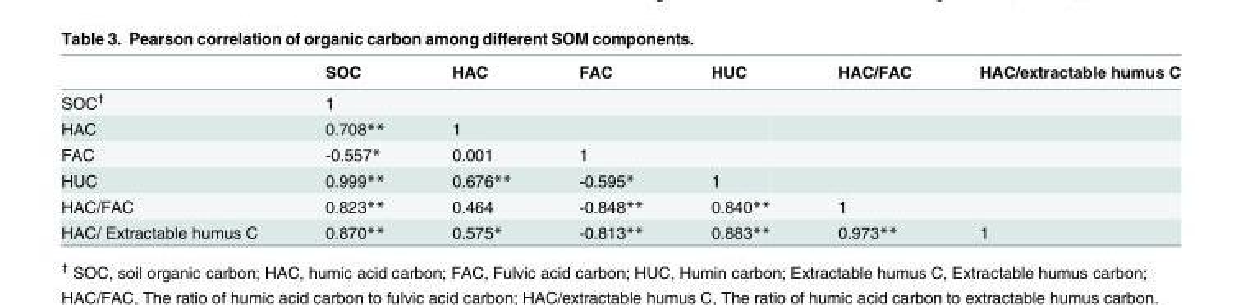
<table><thead><tr><td></td><td>SOC</td><td>HAC</td><td>FAC</td><td>HUC</td><td>HAC/FAC</td><td>HAC/extractable humus C</td></tr></thead><tbody><tr><td>SOC<sup>†</sup></td><td>1</td><td></td><td></td><td></td><td></td><td></td></tr><tr><td>HAC</td><td>0.708**</td><td>1</td><td></td><td></td><td></td><td></td></tr><tr><td>FAC</td><td>-0.557*</td><td>0.001</td><td>1</td><td></td><td></td><td></td></tr><tr><td>HUC</td><td>0.999**</td><td>0.676**</td><td>-0.595*</td><td>1</td><td></td><td></td></tr><tr><td>HAC/FAC</td><td>0.823**</td><td>0.464</td><td>-0.848**</td><td>0.840**</td><td>1</td><td></td></tr><tr><td>HAC/ Extractable humus C</td><td>0.870**</td><td>0.575*</td><td>-0.813**</td><td>0.883**</td><td>0.973**</td><td>1</td></tr></tbody></table>